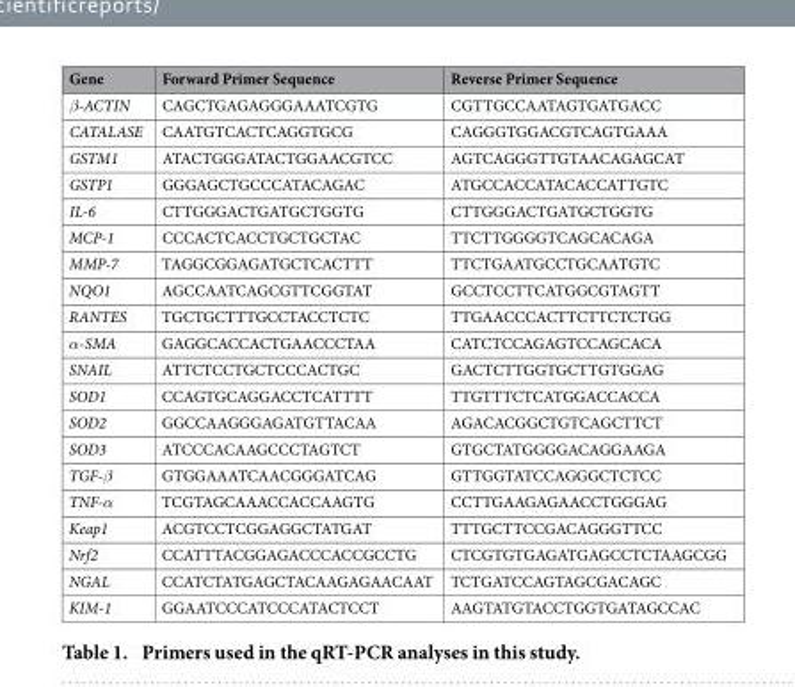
<table><thead><tr><td>Gene</td><td>Forward Primer Sequence</td><td>Reverse Primer Sequence</td></tr></thead><tbody><tr><td>β-ACTIN</td><td>CAGCTGAGAGGGAAATCGTG</td><td>CGTTGCCAATAGTGATGACC</td></tr><tr><td>CATALASE</td><td>CAATGTCACTCAGGTGCG</td><td>CAGGGTGGACGTCAGTGAAA</td></tr><tr><td>GSTM1</td><td>ATACTGGGATACTGGAACGTCC</td><td>AGTCAGGGTTGTAACAGAGCAT</td></tr><tr><td>GSTP1</td><td>GGGAGCTGCCCATACAGAC</td><td>ATGCCACCATACACCATTGTC</td></tr><tr><td>IL-6</td><td>CTTGGGACTGATGCTGGTG</td><td>CTTGGGACTGATGCTGGTG</td></tr><tr><td>MCP-1</td><td>CCCACTCACCTGCTGCTAC</td><td>TTCTTGGGGTCAGCACAGA</td></tr><tr><td>MMP-7</td><td>TAGGCGGAGATGCTCACTTT</td><td>TTCTGAATGCCTGCAATGTC</td></tr><tr><td>NQO1</td><td>AGCCAATCAGCGTTCGGTAT</td><td>GCCTCCTTCATGGCGTAGTT</td></tr><tr><td>RANTES</td><td>TGCTGCTTTGCCTACCTCTC</td><td>TTGAACCCACTTCTTCTCTGG</td></tr><tr><td>α-SMA</td><td>GAGGCACCACTGAACCCTAA</td><td>CATCTCCAGAGTCCAGCACA</td></tr><tr><td>SNAIL</td><td>ATTCTCCTGCTCCCACTGC</td><td>GACTCTTGGTGCTTGTGGAG</td></tr><tr><td>SOD1</td><td>CCAGTGCAGGACCTCATTTT</td><td>TTGTTTCTCATGGACCACCA</td></tr><tr><td>SOD2</td><td>GGCCAAGGGAGATGTTACAA</td><td>AGACACGGCTGTCAGCTTCT</td></tr><tr><td>SOD3</td><td>ATCCCACAAGCCCTAGTCT</td><td>GTGCTATGGGGACAGGAAGA</td></tr><tr><td>TGF-β</td><td>GTGGAAATCAACGGGATCAG</td><td>GTTGGTATCCAGGGCTCTCC</td></tr><tr><td>TNF-α</td><td>TCGTAGCAAACCACCAAGTG</td><td>CCTTGAAGAGAACCTGGGAG</td></tr><tr><td>Keap1</td><td>ACGTCCTCGGAGGCTATGAT</td><td>TTTGCTTCCGACAGGGTTCC</td></tr><tr><td>Nrf2</td><td>CCATTTACGGAGACCCACCGCCTG</td><td>CTCGTGTGAGATGAGCCTCTAAGCGG</td></tr><tr><td>NGAL</td><td>CCATCTATGAGCTACAAGAGAACAAT</td><td>TCTGATCCAGTAGCGACAGC</td></tr><tr><td>KIM-1</td><td>GGAATCCCATCCCATACTCCT</td><td>AAGTATGTACCTGGTGATAGCCAC</td></tr></tbody></table>